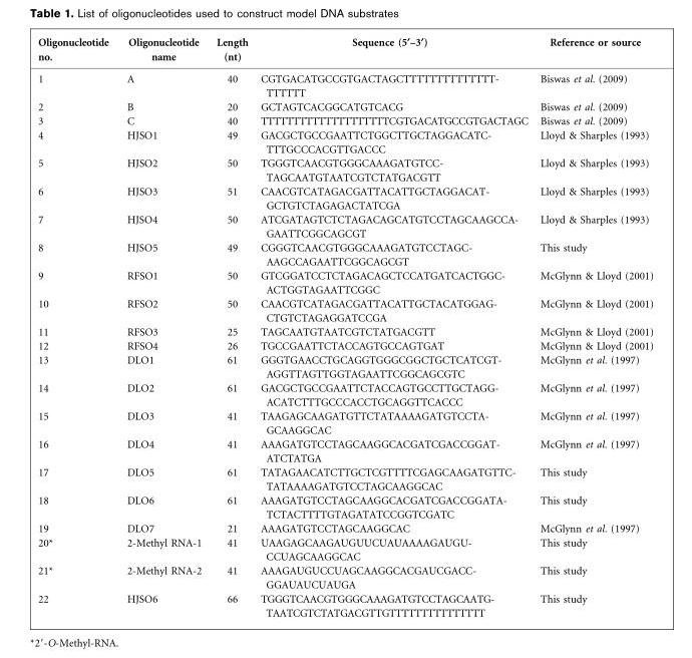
<table><thead><tr><td>Oligonucleotide no.</td><td>Oligonucleotide name</td><td>Length (nt)</td><td>Sequence (5§–3§)</td><td>Reference or source</td></tr></thead><tbody><tr><td>1</td><td>A</td><td>40</td><td>CGTGACATGCCGTGACTAGCTTTTTTTTTTTTTT- TTTTTT</td><td>Biswas et al. (2009)</td></tr><tr><td>2</td><td>B</td><td>20</td><td>GCTAGTCACGGCATGTCACG</td><td>Biswas et al. (2009)</td></tr><tr><td>3</td><td>C</td><td>40</td><td>TTTTTTTTTTTTTTTTTTTTCGTGACATGCCGTGACTAGC</td><td>Biswas et al. (2009)</td></tr><tr><td>4</td><td>HJSO1</td><td>49</td><td>GACGCTGCCGAATTCTGGCTTGCTAGGACATC- TTTGCCCACGTTGACCC</td><td>Lloyd &amp; Sharples (1993)</td></tr><tr><td>5</td><td>HJSO2</td><td>50</td><td>TGGGTCAACGTGGGCAAAGATGTCC- TAGCAATGTAATCGTCTATGACGTT</td><td>Lloyd &amp; Sharples (1993)</td></tr><tr><td>6</td><td>HJSO3</td><td>51</td><td>CAACGTCATAGACGATTACATTGCTAGGACAT- GCTGTCTAGAGACTATCGA</td><td>Lloyd &amp; Sharples (1993)</td></tr><tr><td>7</td><td>HJSO4</td><td>50</td><td>ATCGATAGTCTCTAGACAGCATGTCCTAGCAAGCCA- GAATTCGGCAGCGT</td><td>Lloyd &amp; Sharples (1993)</td></tr><tr><td>8</td><td>HJSO5</td><td>49</td><td>CGGGTCAACGTGGGCAAAGATGTCCTAGC- AAGCCAGAATTCGGCAGCGT</td><td>This study</td></tr><tr><td>9</td><td>RFSO1</td><td>50</td><td>GTCGGATCCTCTAGACAGCTCCATGATCACTGGC- ACTGGTAGAATTCGGC</td><td>McGlynn &amp; Lloyd (2001)</td></tr><tr><td>10</td><td>RFSO2</td><td>50</td><td>CAACGTCATAGACGATTACATTGCTACATGGAG- CTGTCTAGAGGATCCGA</td><td>McGlynn &amp; Lloyd (2001)</td></tr><tr><td>11</td><td>RFSO3</td><td>25</td><td>TAGCAATGTAATCGTCTATGACGTT</td><td>McGlynn &amp; Lloyd (2001)</td></tr><tr><td>12</td><td>RFSO4</td><td>26</td><td>TGCCGAATTCTACCAGTGCCAGTGAT</td><td>McGlynn &amp; Lloyd (2001)</td></tr><tr><td>13</td><td>DLO1</td><td>61</td><td>GGGTGAACCTGCAGGTGGGCGGCTGCTCATCGT- AGGTTAGTTGGTAGAATTCGGCAGCGTC</td><td>McGlynn et al. (1997)</td></tr><tr><td>14</td><td>DLO2</td><td>61</td><td>GACGCTGCCGAATTCTACCAGTGCCTTGCTAGG- ACATCTTTGCCCACCTGCAGGTTCACCC</td><td>McGlynn et al. (1997)</td></tr><tr><td>15</td><td>DLO3</td><td>41</td><td>TAAGAGCAAGATGTTCTATAAAAGATGTCCTA- GCAAGGCAC</td><td>McGlynn et al. (1997)</td></tr><tr><td>16</td><td>DLO4</td><td>41</td><td>AAAGATGTCCTAGCAAGGCACGATCGACCGGAT- ATCTATGA</td><td>McGlynn et al. (1997)</td></tr><tr><td>17</td><td>DLO5</td><td>61</td><td>TATAGAACATCTTGCTCGTTTTCGAGCAAGATGTTC- TATAAAAGATGTCCTAGCAAGGCAC</td><td>This study</td></tr><tr><td>18</td><td>DLO6</td><td>61</td><td>AAAGATGTCCTAGCAAGGCACGATCGACCGGATA- TCTACTTTTGTAGATATCCGGTCGATC</td><td>This study</td></tr><tr><td>19</td><td>DLO7</td><td>21</td><td>AAAGATGTCCTAGCAAGGCAC</td><td>McGlynn et al. (1997)</td></tr><tr><td>20*</td><td>2-Methyl RNA-1</td><td>41</td><td>UAAGAGCAAGAUGUUCUAUAAAAGAUGU- CCUAGCAAGGCAC</td><td>This study</td></tr><tr><td>21*</td><td>2-Methyl RNA-2</td><td>41</td><td>AAAGAUGUCCUAGCAAGGCACGAUCGACC- GGAUAUCUAUGA</td><td>This study</td></tr><tr><td>22</td><td>HJSO6</td><td>66</td><td>TGGGTCAACGTGGGCAAAGATGTCCTAGCAATG- TAATCGTCTATGACGTTGTTTTTTTTTTTTTTT</td><td>This study</td></tr></tbody></table>